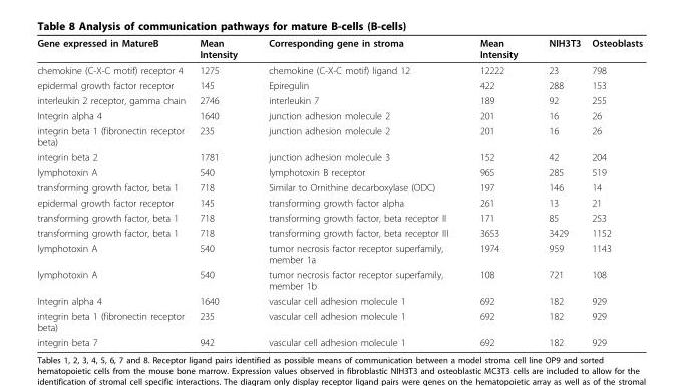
<table><thead><tr><td>Gene expressed in MatureB</td><td>Mean Intensity</td><td>Corresponding gene in stroma</td><td>Mean Intensity</td><td>NIH3T3</td><td>Osteoblasts</td></tr></thead><tbody><tr><td>chemokine (C-X-C motif) receptor 4</td><td>1275</td><td>chemokine (C-X-C motif) ligand 12</td><td>12222</td><td>23</td><td>798</td></tr><tr><td>epidermal growth factor receptor</td><td>145</td><td>Epiregulin</td><td>422</td><td>288</td><td>153</td></tr><tr><td>interleukin 2 receptor, gamma chain</td><td>2746</td><td>interleukin 7</td><td>189</td><td>92</td><td>255</td></tr><tr><td>Integrin alpha 4</td><td>1640</td><td>junction adhesion molecule 2</td><td>201</td><td>16</td><td>26</td></tr><tr><td>integrin beta 1 (fibronectin receptor beta)</td><td>235</td><td>junction adhesion molecule 2</td><td>201</td><td>16</td><td>26</td></tr><tr><td>integrin beta 2</td><td>1781</td><td>junction adhesion molecule 3</td><td>152</td><td>42</td><td>204</td></tr><tr><td>lymphotoxin A</td><td>540</td><td>lymphotoxin B receptor</td><td>965</td><td>285</td><td>519</td></tr><tr><td>transforming growth factor, beta 1</td><td>718</td><td>Similar to Ornithine decarboxylase (ODC)</td><td>197</td><td>146</td><td>14</td></tr><tr><td>epidermal growth factor receptor</td><td>145</td><td>transforming growth factor alpha</td><td>261</td><td>13</td><td>21</td></tr><tr><td>transforming growth factor, beta 1</td><td>718</td><td>transforming growth factor, beta receptor II</td><td>171</td><td>85</td><td>253</td></tr><tr><td>transforming growth factor, beta 1</td><td>718</td><td>transforming growth factor, beta receptor III</td><td>3653</td><td>3429</td><td>1152</td></tr><tr><td>lymphotoxin A</td><td>540</td><td>tumor necrosis factor receptor superfamily, member 1a</td><td>1974</td><td>959</td><td>1143</td></tr><tr><td>lymphotoxin A</td><td>540</td><td>tumor necrosis factor receptor superfamily, member 1b</td><td>108</td><td>721</td><td>108</td></tr><tr><td>Integrin alpha 4</td><td>1640</td><td>vascular cell adhesion molecule 1</td><td>692</td><td>182</td><td>929</td></tr><tr><td>integrin beta 1 (fibronectin receptor beta)</td><td>235</td><td>vascular cell adhesion molecule 1</td><td>692</td><td>182</td><td>929</td></tr><tr><td>integrin beta 7</td><td>942</td><td>vascular cell adhesion molecule 1</td><td>692</td><td>182</td><td>929</td></tr></tbody></table>